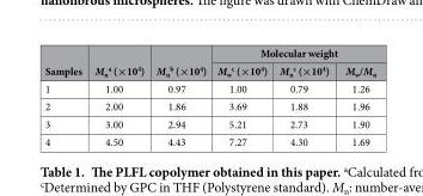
<table><thead><tr><td rowspan="2">Samples</td><td rowspan="2">M<sub>n</sub> <sup>a</sup> (×10<sup>4</sup>)</td><td rowspan="2">M<sub>n</sub> <sup>b</sup> (×10<sup>4</sup>)</td><td colspan="3">Molecular weight</td></tr><tr><td>M<sub>w</sub> <sup>c</sup> (×10<sup>4</sup>)</td><td>M<sub>n</sub> <sup>c</sup> (×10<sup>4</sup>)</td><td>M<sub>w</sub>/M<sub>n</sub></td></tr></thead><tbody><tr><td>1</td><td>1.00</td><td>0.97</td><td>1.00</td><td>0.79</td><td>1.26</td></tr><tr><td>2</td><td>2.00</td><td>1.86</td><td>3.69</td><td>1.88</td><td>1.96</td></tr><tr><td>3</td><td>3.00</td><td>2.94</td><td>5.21</td><td>2.73</td><td>1.90</td></tr><tr><td>4</td><td>4.50</td><td>4.43</td><td>7.27</td><td>4.30</td><td>1.69</td></tr></tbody></table>